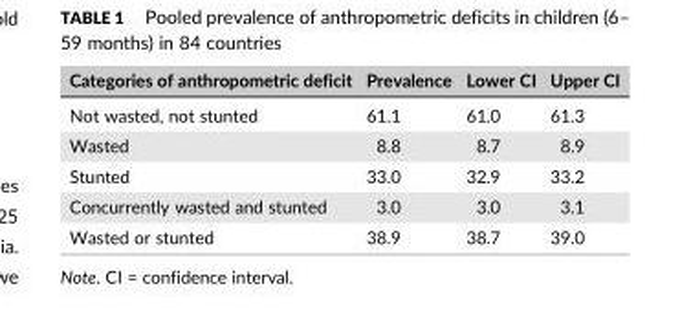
<table><thead><tr><td>Categories of anthropometric deficit</td><td>Prevalence</td><td>Lower CI</td><td>Upper CI</td></tr></thead><tbody><tr><td>Not wasted, not stunted</td><td>61.1</td><td>61.0</td><td>61.3</td></tr><tr><td>Wasted</td><td>8.8</td><td>8.7</td><td>8.9</td></tr><tr><td>Stunted</td><td>33.0</td><td>32.9</td><td>33.2</td></tr><tr><td>Concurrently wasted and stunted</td><td>3.0</td><td>3.0</td><td>3.1</td></tr><tr><td>Wasted or stunted</td><td>38.9</td><td>38.7</td><td>39.0</td></tr></tbody></table>